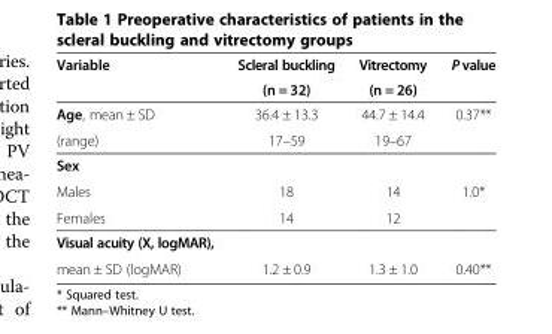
<table><thead><tr><td rowspan="2">Variable</td><td rowspan="2">Scleral buckling (n = 32)</td><td rowspan="2">Vitrectomy (n = 26)</td><td rowspan="2">P value</td></tr><tr></tr></thead><tbody><tr><td>Age, mean ± SD</td><td>36.4 ± 13.3</td><td>44.7 ± 14.4</td><td>0.37**</td></tr><tr><td>(range)</td><td>17–59</td><td>19–67</td><td></td></tr><tr><td colspan="4">Sex</td></tr><tr><td>Males</td><td>18</td><td>14</td><td>1.0*</td></tr><tr><td>Females</td><td>14</td><td>12</td><td></td></tr><tr><td colspan="4">Visual acuity (X, logMAR),</td></tr><tr><td>mean ± SD (logMAR)</td><td>1.2 ± 0.9</td><td>1.3 ± 1.0</td><td>0.40**</td></tr></tbody></table>